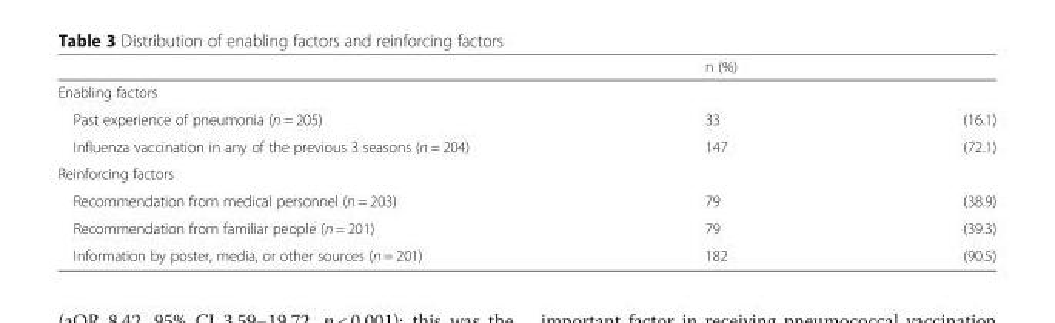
<table><thead><tr><td></td><td colspan="2">n (%)</td></tr><tr><td colspan="3">Enabling factors</td></tr><tr><td>Past experience of pneumonia (n = 205)</td><td>33</td><td>(16.1)</td></tr></thead><tbody><tr><td>Influenza vaccination in any of the previous 3 seasons (n = 204)</td><td>147</td><td>(72.1)</td></tr><tr><td colspan="3">Reinforcing factors</td></tr><tr><td>Recommendation from medical personnel (n = 203)</td><td>79</td><td>(38.9)</td></tr><tr><td>Recommendation from familiar people (n = 201)</td><td>79</td><td>(39.3)</td></tr><tr><td>Information by poster, media, or other sources (n = 201)</td><td>182</td><td>(90.5)</td></tr></tbody></table>